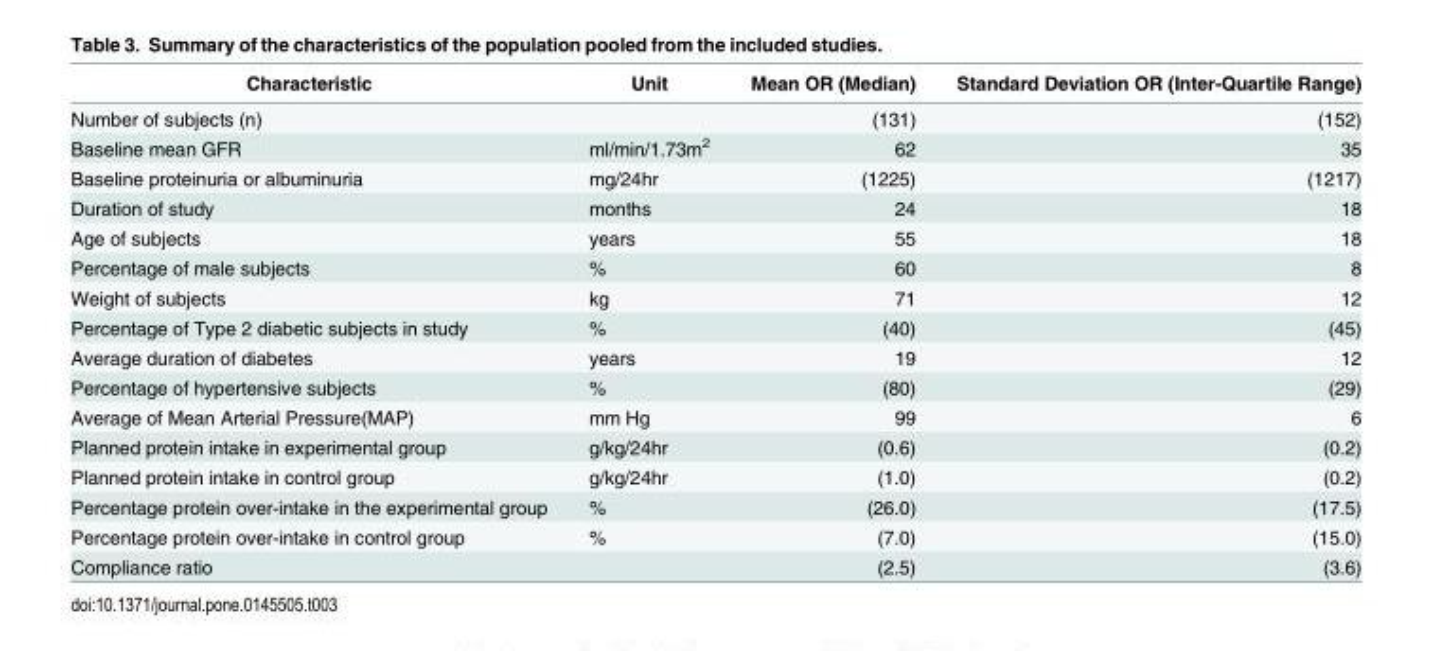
<table><thead><tr><td>Characteristic</td><td>Unit</td><td>Mean OR (Median)</td><td>Standard Deviation OR (Inter-Quartile Range)</td></tr></thead><tbody><tr><td>Number of subjects (n)</td><td></td><td>(131)</td><td>(152)</td></tr><tr><td>Baseline mean GFR</td><td>ml/min/1.73m<sup>2</sup></td><td>62</td><td>35</td></tr><tr><td>Baseline proteinuria or albuminuria</td><td>mg/24hr</td><td>(1225)</td><td>(1217)</td></tr><tr><td>Duration of study</td><td>months</td><td>24</td><td>18</td></tr><tr><td>Age of subjects</td><td>years</td><td>55</td><td>18</td></tr><tr><td>Percentage of male subjects</td><td>%</td><td>60</td><td>8</td></tr><tr><td>Weight of subjects</td><td>kg</td><td>71</td><td>12</td></tr><tr><td>Percentage of Type 2 diabetic subjects in study</td><td>%</td><td>(40)</td><td>(45)</td></tr><tr><td>Average duration of diabetes</td><td>years</td><td>19</td><td>12</td></tr><tr><td>Percentage of hypertensive subjects</td><td>%</td><td>(80)</td><td>(29)</td></tr><tr><td>Average of Mean Arterial Pressure(MAP)</td><td>mm Hg</td><td>99</td><td>6</td></tr><tr><td>Planned protein intake in experimental group</td><td>g/kg/24hr</td><td>(0.6)</td><td>(0.2)</td></tr><tr><td>Planned protein intake in control group</td><td>g/kg/24hr</td><td>(1.0)</td><td>(0.2)</td></tr><tr><td>Percentage protein over-intake in the experimental group</td><td>%</td><td>(26.0)</td><td>(17.5)</td></tr><tr><td>Percentage protein over-intake in control group</td><td>%</td><td>(7.0)</td><td>(15.0)</td></tr><tr><td>Compliance ratio</td><td></td><td>(2.5)</td><td>(3.6)</td></tr></tbody></table>